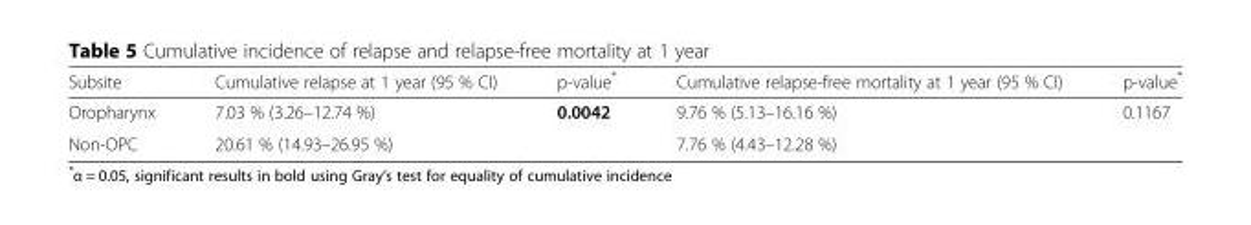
<table><thead><tr><td>Subsite</td><td>Cumulative relapse at 1 year (95 % CI)</td><td>p-value*</td><td>Cumulative relapse-free mortality at 1 year (95 % CI)</td><td>p-value*</td></tr></thead><tbody><tr><td>Oropharynx</td><td>7.03 % (3.26–12.74 %)</td><td rowspan="2">0.0042</td><td>9.76 % (5.13–16.16 %)</td><td rowspan="2">0.1167</td></tr><tr><td>Non-OPC</td><td>20.61 % (14.93–26.95 %)</td><td>7.76 % (4.43–12.28 %)</td></tr></tbody></table>